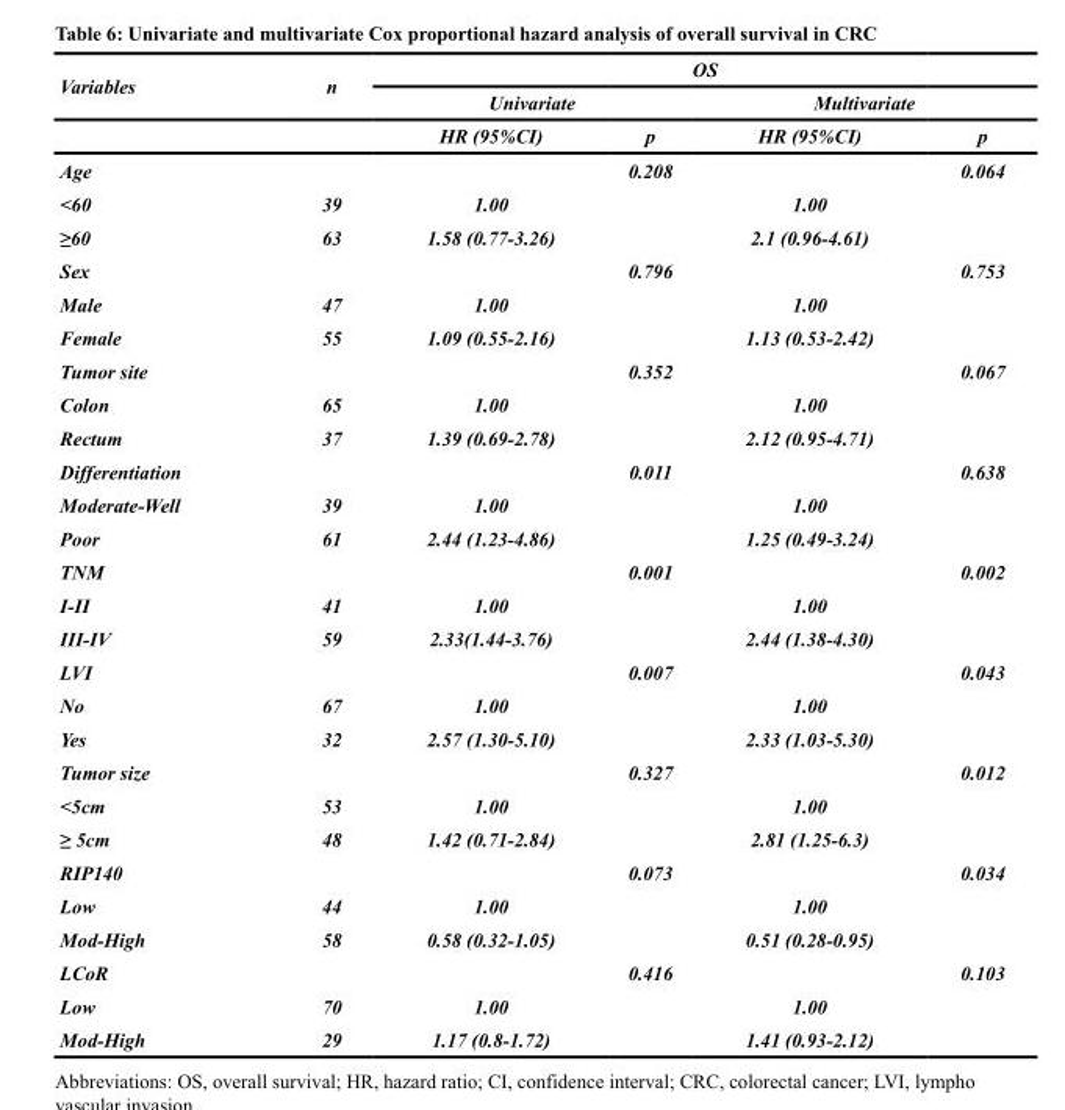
<table><thead><tr><td rowspan="3">Variables</td><td rowspan="3">n</td><td colspan="4">OS</td></tr><tr><td colspan="2">Univariate</td><td colspan="2">Multivariate</td></tr><tr><td>HR (95%CI)</td><td>p</td><td>HR (95%CI)</td><td>p</td></tr></thead><tbody><tr><td>Age</td><td></td><td></td><td>0.208</td><td></td><td>0.064</td></tr><tr><td>&lt;60</td><td>39</td><td>1.00</td><td></td><td>1.00</td><td></td></tr><tr><td>≥60</td><td>63</td><td>1.58 (0.77-3.26)</td><td></td><td>2.1 (0.96-4.61)</td><td></td></tr><tr><td>Sex</td><td></td><td></td><td>0.796</td><td></td><td>0.753</td></tr><tr><td>Male</td><td>47</td><td>1.00</td><td></td><td>1.00</td><td></td></tr><tr><td>Female</td><td>55</td><td>1.09 (0.55-2.16)</td><td></td><td>1.13 (0.53-2.42)</td><td></td></tr><tr><td>Tumor site</td><td></td><td></td><td>0.352</td><td></td><td>0.067</td></tr><tr><td>Colon</td><td>65</td><td>1.00</td><td></td><td>1.00</td><td></td></tr><tr><td>Rectum</td><td>37</td><td>1.39 (0.69-2.78)</td><td></td><td>2.12 (0.95-4.71)</td><td></td></tr><tr><td>Differentiation</td><td></td><td></td><td>0.011</td><td></td><td>0.638</td></tr><tr><td>Moderate-Well</td><td>39</td><td>1.00</td><td></td><td>1.00</td><td></td></tr><tr><td>Poor</td><td>61</td><td>2.44 (1.23-4.86)</td><td></td><td>1.25 (0.49-3.24)</td><td></td></tr><tr><td>TNM</td><td></td><td></td><td>0.001</td><td></td><td>0.002</td></tr><tr><td>I-II</td><td>41</td><td>1.00</td><td></td><td>1.00</td><td></td></tr><tr><td>III-IV</td><td>59</td><td>2.33(1.44-3.76)</td><td></td><td>2.44 (1.38-4.30)</td><td></td></tr><tr><td>LVI</td><td></td><td></td><td>0.007</td><td></td><td>0.043</td></tr><tr><td>No</td><td>67</td><td>1.00</td><td></td><td>1.00</td><td></td></tr><tr><td>Yes</td><td>32</td><td>2.57 (1.30-5.10)</td><td></td><td>2.33 (1.03-5.30)</td><td></td></tr><tr><td>Tumor size</td><td></td><td></td><td>0.327</td><td></td><td>0.012</td></tr><tr><td>&lt;5cm</td><td>53</td><td>1.00</td><td></td><td>1.00</td><td></td></tr><tr><td>≥ 5cm</td><td>48</td><td>1.42 (0.71-2.84)</td><td></td><td>2.81 (1.25-6.3)</td><td></td></tr><tr><td>RIP140</td><td></td><td></td><td>0.073</td><td></td><td>0.034</td></tr><tr><td>Low</td><td>44</td><td>1.00</td><td></td><td>1.00</td><td></td></tr><tr><td>Mod-High</td><td>58</td><td>0.58 (0.32-1.05)</td><td></td><td>0.51 (0.28-0.95)</td><td></td></tr><tr><td>LCoR</td><td></td><td></td><td>0.416</td><td></td><td>0.103</td></tr><tr><td>Low</td><td>70</td><td>1.00</td><td></td><td>1.00</td><td></td></tr><tr><td>Mod-High</td><td>29</td><td>1.17 (0.8-1.72)</td><td></td><td>1.41 (0.93-2.12)</td><td></td></tr></tbody></table>